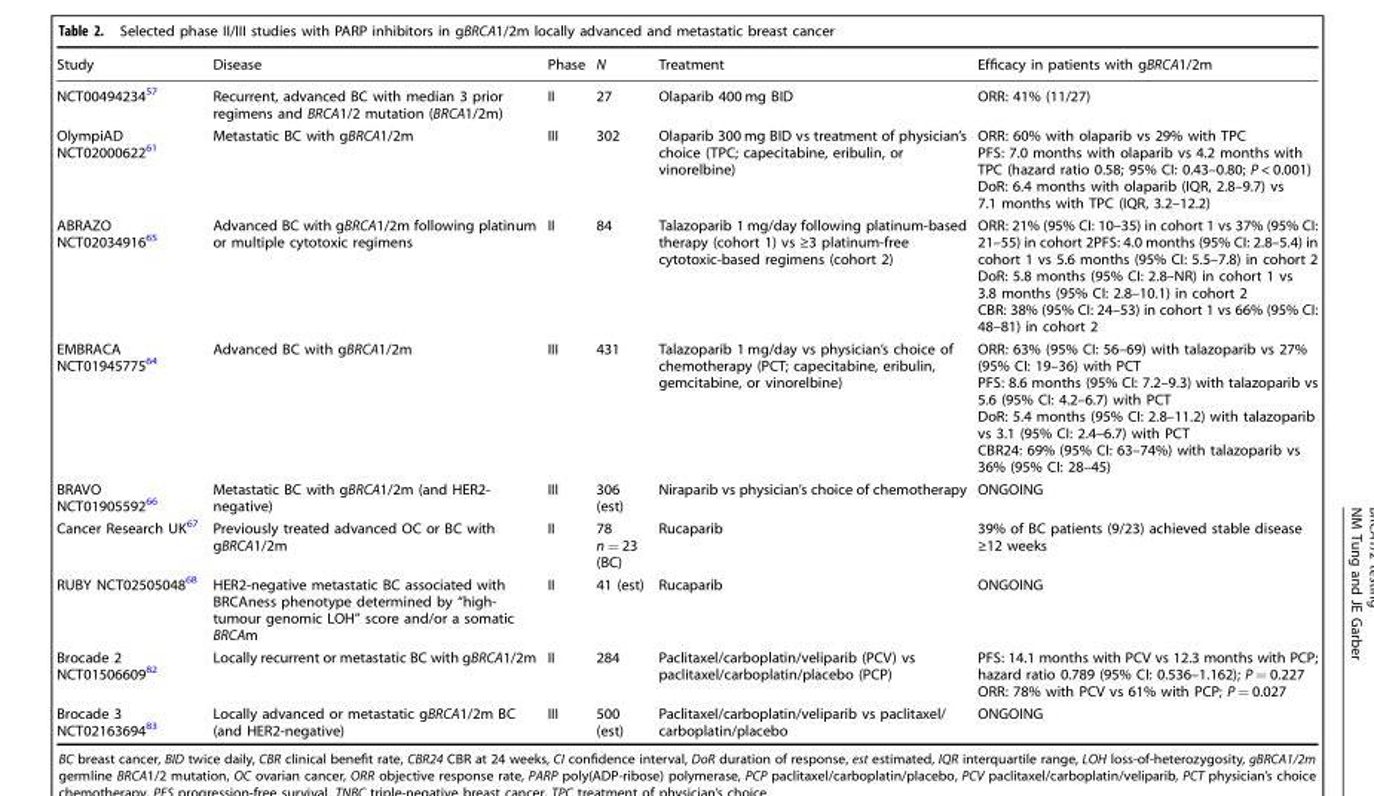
<table><thead><tr><td>Study</td><td>Disease</td><td>Phase</td><td>N</td><td>Treatment</td><td>Efficacy in patients with gBRCA1/2m</td></tr></thead><tbody><tr><td>NCT00494234<sup>57</sup></td><td>Recurrent, advanced BC with median 3 prior regimens and BRCA1/2 mutation (BRCA1/2m)</td><td>II</td><td>27</td><td>Olaparib 400 mg BID</td><td>ORR: 41% (11/27)</td></tr><tr><td>OlympiAD NCT02000622<sup>61</sup></td><td>Metastatic BC with gBRCA1/2m</td><td>III</td><td>302</td><td>Olaparib 300 mg BID vs treatment of physician’s choice (TPC; capecitabine, eribulin, or vinorelbine)</td><td>ORR: 60% with olaparib vs 29% with TPC PFS: 7.0 months with olaparib vs 4.2 months with TPC (hazard ratio 0.58; 95% CI: 0.43–0.80; P &lt; 0.001) DoR: 6.4 months with olaparib (IQR, 2.8–9.7) vs 7.1 months with TPC (IQR, 3.2–12.2)</td></tr><tr><td>ABRAZO NCT02034916<sup>65</sup></td><td>Advanced BC with gBRCA1/2m following platinum or multiple cytotoxic regimens</td><td>II</td><td>84</td><td>Talazoparib 1 mg/day following platinum-based therapy (cohort 1) vs ≥3 platinum-free cytotoxic-based regimens (cohort 2)</td><td>ORR: 21% (95% CI: 10–35) in cohort 1 vs 37% (95% CI: 21–55) in cohort 2PFS: 4.0 months (95% CI: 2.8–5.4) in cohort 1 vs 5.6 months (95% CI: 5.5–7.8) in cohort 2 DoR: 5.8 months (95% CI: 2.8–NR) in cohort 1 vs 3.8 months (95% CI: 2.8–10.1) in cohort 2 CBR: 38% (95% CI: 24–53) in cohort 1 vs 66% (95% CI: 48–81) in cohort 2</td></tr><tr><td>EMBRACA NCT01945775<sup>64</sup></td><td>Advanced BC with gBRCA1/2m</td><td>III</td><td>431</td><td>Talazoparib 1 mg/day vs physician’s choice of chemotherapy (PCT; capecitabine, eribulin, gemcitabine, or vinorelbine)</td><td>ORR: 63% (95% CI: 56–69) with talazoparib vs 27% (95% CI: 19–36) with PCT PFS: 8.6 months (95% CI: 7.2–9.3) with talazoparib vs 5.6 (95% CI: 4.2–6.7) with PCT DoR: 5.4 months (95% CI: 2.8–11.2) with talazoparib vs 3.1 (95% CI: 2.4–6.7) with PCT CBR24: 69% (95% CI: 63–74%) with talazoparib vs 36% (95% CI: 28–45)</td></tr><tr><td>BRAVO NCT01905592<sup>66</sup></td><td>Metastatic BC with gBRCA1/2m (and HER2- negative)</td><td>III</td><td>306 (est)</td><td>Niraparib vs physician’s choice of chemotherapy</td><td>ONGOING</td></tr><tr><td>Cancer Research UK<sup>67</sup></td><td>Previously treated advanced OC or BC with gBRCA1/2m</td><td>II</td><td>78 n = 23 (BC)</td><td>Rucaparib</td><td>39% of BC patients (9/23) achieved stable disease ≥12 weeks</td></tr><tr><td>RUBY NCT02505048<sup>68</sup></td><td>HER2-negative metastatic BC associated with BRCAness phenotype determined by “high- tumour genomic LOH” score and/or a somatic BRCAm</td><td>II</td><td>41 (est)</td><td>Rucaparib</td><td>ONGOING</td></tr><tr><td>Brocade 2 NCT01506609<sup>82</sup></td><td>Locally recurrent or metastatic BC with gBRCA1/2m</td><td>II</td><td>284</td><td>Paclitaxel/carboplatin/veliparib (PCV) vs paclitaxel/carboplatin/placebo (PCP)</td><td>PFS: 14.1 months with PCV vs 12.3 months with PCP; hazard ratio 0.789 (95% CI: 0.536–1.162); P = 0.227 ORR: 78% with PCV vs 61% with PCP; P = 0.027</td></tr><tr><td>Brocade 3 NCT02163694<sup>83</sup></td><td>Locally advanced or metastatic gBRCA1/2m BC (and HER2-negative)</td><td>III</td><td>500 (est)</td><td>Paclitaxel/carboplatin/veliparib vs paclitaxel/ carboplatin/placebo</td><td>ONGOING</td></tr></tbody></table>